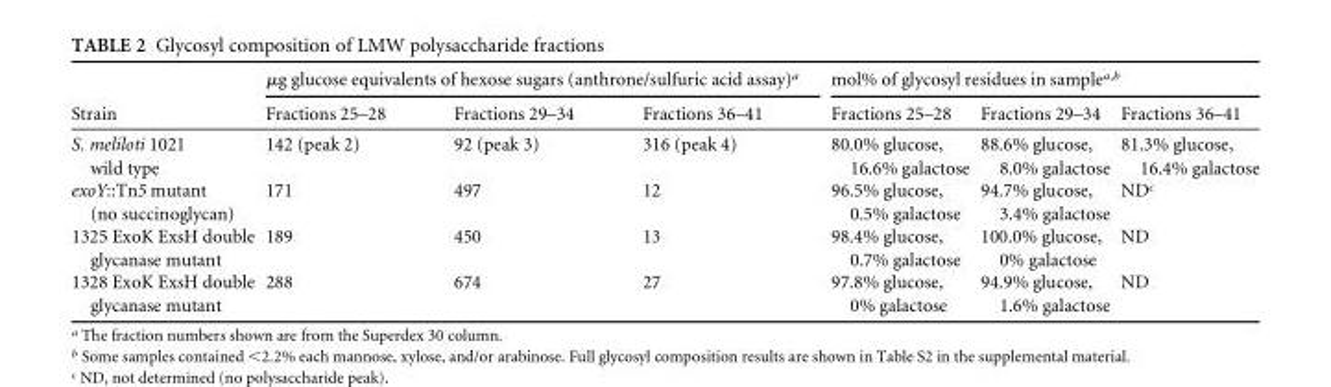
<table><thead><tr><td rowspan="2">Strain</td><td colspan="3">µg glucose equivalents of hexose sugars (anthrone/sulfuric acid assay)<sup>a</sup></td><td colspan="3">mol% of glycosyl residues in sample<sup>a,b</sup></td></tr><tr><td>Fractions 25–28</td><td>Fractions 29–34</td><td>Fractions 36–41</td><td>Fractions 25–28</td><td>Fractions 29–34</td><td>Fractions 36–41</td></tr></thead><tbody><tr><td>S. meliloti 1021 wild type</td><td>142 (peak 2)</td><td>92 (peak 3)</td><td>316 (peak 4)</td><td>80.0% glucose, 16.6% galactose</td><td>88.6% glucose, 8.0% galactose</td><td>81.3% glucose, 16.4% galactose</td></tr><tr><td>exoY::Tn5 mutant (no succinoglycan)</td><td>171</td><td>497</td><td>12</td><td>96.5% glucose, 0.5% galactose</td><td>94.7% glucose, 3.4% galactose</td><td>ND<sup>c</sup></td></tr><tr><td>1325 ExoK ExsH double glycanase mutant</td><td>189</td><td>450</td><td>13</td><td>98.4% glucose, 0.7% galactose</td><td>100.0% glucose, 0% galactose</td><td>ND</td></tr><tr><td>1328 ExoK ExsH double glycanase mutant</td><td>288</td><td>674</td><td>27</td><td>97.8% glucose, 0% galactose</td><td>94.9% glucose, 1.6% galactose</td><td>ND</td></tr></tbody></table>